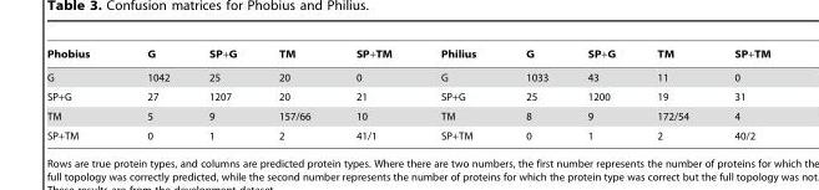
<table><thead><tr><td>Phobius</td><td>G</td><td>SP+G</td><td>TM</td><td>SP+TM</td><td>Philius</td><td>G</td><td>SP+G</td><td>TM</td><td>SP+TM</td></tr></thead><tbody><tr><td>G</td><td>1042</td><td>25</td><td>20</td><td>0</td><td>G</td><td>1033</td><td>43</td><td>11</td><td>0</td></tr><tr><td>SP+G</td><td>27</td><td>1207</td><td>20</td><td>21</td><td>SP+G</td><td>25</td><td>1200</td><td>19</td><td>31</td></tr><tr><td>TM</td><td>5</td><td>9</td><td>157/66</td><td>10</td><td>TM</td><td>8</td><td>9</td><td>172/54</td><td>4</td></tr><tr><td>SP+TM</td><td>0</td><td>1</td><td>2</td><td>41/1</td><td>SP+TM</td><td>0</td><td>1</td><td>2</td><td>40/2</td></tr></tbody></table>